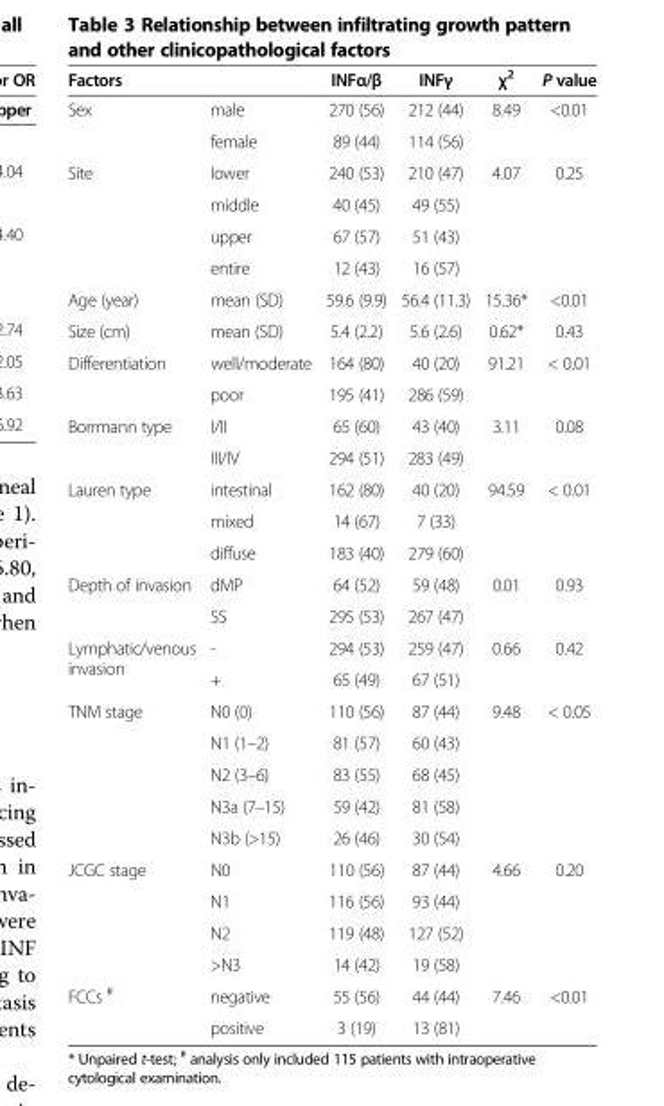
<table><thead><tr><td>Factors</td><td></td><td>INFα/β</td><td>INFγ</td><td>χ<sup>2</sup></td><td>P value</td></tr></thead><tbody><tr><td rowspan="2">Sex</td><td>male</td><td>270 (56)</td><td>212 (44)</td><td rowspan="2">8.49</td><td rowspan="2">&lt;0.01</td></tr><tr><td>female</td><td>89 (44)</td><td>114 (56)</td></tr><tr><td rowspan="4">Site</td><td>lower</td><td>240 (53)</td><td>210 (47)</td><td rowspan="4">4.07</td><td rowspan="4">0.25</td></tr><tr><td>middle</td><td>40 (45)</td><td>49 (55)</td></tr><tr><td>upper</td><td>67 (57)</td><td>51 (43)</td></tr><tr><td>entire</td><td>12 (43)</td><td>16 (57)</td></tr><tr><td>Age (year)</td><td>mean (SD)</td><td>59.6 (9.9)</td><td>56.4 (11.3)</td><td>15.36*</td><td>&lt;0.01</td></tr><tr><td>Size (cm)</td><td>mean (SD)</td><td>5.4 (2.2)</td><td>5.6 (2.6)</td><td>0.62*</td><td>0.43</td></tr><tr><td rowspan="2">Differentiation</td><td>well/moderate</td><td>164 (80)</td><td>40 (20)</td><td rowspan="2">91.21</td><td rowspan="2">&lt; 0.01</td></tr><tr><td>poor</td><td>195 (41)</td><td>286 (59)</td></tr><tr><td rowspan="2">Borrmann type</td><td>I/II</td><td>65 (60)</td><td>43 (40)</td><td rowspan="2">3.11</td><td rowspan="2">0.08</td></tr><tr><td>III/IV</td><td>294 (51)</td><td>283 (49)</td></tr><tr><td rowspan="3">Lauren type</td><td>intestinal</td><td>162 (80)</td><td>40 (20)</td><td rowspan="3">94.59</td><td rowspan="3">&lt; 0.01</td></tr><tr><td>mixed</td><td>14 (67)</td><td>7 (33)</td></tr><tr><td>diffuse</td><td>183 (40)</td><td>279 (60)</td></tr><tr><td rowspan="2">Depth of invasion</td><td>dMP</td><td>64 (52)</td><td>59 (48)</td><td rowspan="2">0.01</td><td rowspan="2">0.93</td></tr><tr><td>SS</td><td>295 (53)</td><td>267 (47)</td></tr><tr><td rowspan="2">Lymphatic/venous invasion</td><td>-</td><td>294 (53)</td><td>259 (47)</td><td rowspan="2">0.66</td><td rowspan="2">0.42</td></tr><tr><td>+</td><td>65 (49)</td><td>67 (51)</td></tr><tr><td rowspan="5">TNM stage</td><td>N0 (0)</td><td>110 (56)</td><td>87 (44)</td><td rowspan="5">9.48</td><td rowspan="5">&lt; 0.05</td></tr><tr><td>N1 (1–2)</td><td>81 (57)</td><td>60 (43)</td></tr><tr><td>N2 (3–6)</td><td>83 (55)</td><td>68 (45)</td></tr><tr><td>N3a (7–15)</td><td>59 (42)</td><td>81 (58)</td></tr><tr><td>N3b (&gt;15)</td><td>26 (46)</td><td>30 (54)</td></tr><tr><td rowspan="4">JCGC stage</td><td>N0</td><td>110 (56)</td><td>87 (44)</td><td rowspan="4">4.66</td><td rowspan="4">0.20</td></tr><tr><td>N1</td><td>116 (56)</td><td>93 (44)</td></tr><tr><td>N2</td><td>119 (48)</td><td>127 (52)</td></tr><tr><td>&gt;N3</td><td>14 (42)</td><td>19 (58)</td></tr><tr><td rowspan="2">FCCs <sup>#</sup></td><td>negative</td><td>55 (56)</td><td>44 (44)</td><td>7.46</td><td>&lt;0.01</td></tr><tr><td>positive</td><td>3 (19)</td><td>13 (81)</td><td></td><td></td></tr></tbody></table>